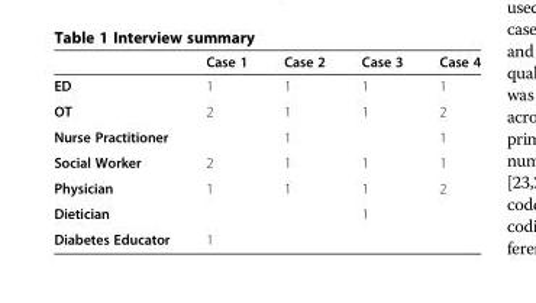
<table><thead><tr><td></td><td>Case 1</td><td>Case 2</td><td>Case 3</td><td>Case 4</td></tr></thead><tbody><tr><td>ED</td><td>1</td><td>1</td><td>1</td><td>1</td></tr><tr><td>OT</td><td>2</td><td>1</td><td>1</td><td>2</td></tr><tr><td>Nurse Practitioner</td><td></td><td>1</td><td></td><td>1</td></tr><tr><td>Social Worker</td><td>2</td><td>1</td><td>1</td><td>1</td></tr><tr><td>Physician</td><td>1</td><td>1</td><td>1</td><td>2</td></tr><tr><td>Dietician</td><td></td><td></td><td>1</td><td></td></tr><tr><td>Diabetes Educator</td><td>1</td><td></td><td></td><td></td></tr></tbody></table>